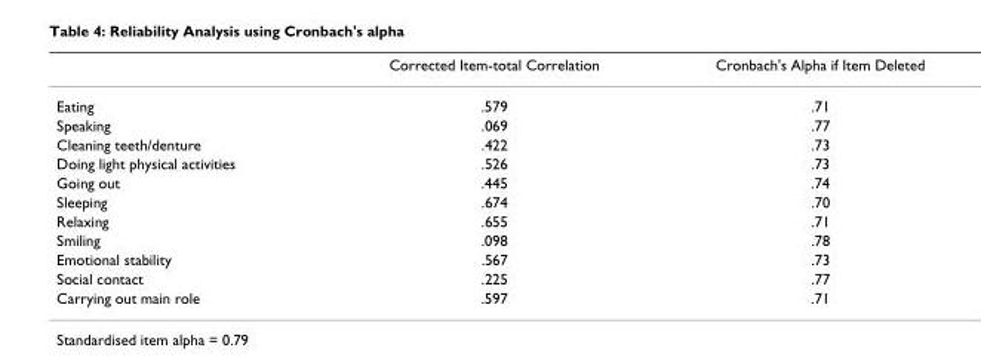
<table><thead><tr><td></td><td>Corrected Item-total Correlation</td><td>Cronbach&#x27;s Alpha if Item Deleted</td></tr></thead><tbody><tr><td>Eating</td><td>.579</td><td>.71</td></tr><tr><td>Speaking</td><td>.069</td><td>.77</td></tr><tr><td>Cleaning teeth/denture</td><td>.422</td><td>.73</td></tr><tr><td>Doing light physical activities</td><td>.526</td><td>.73</td></tr><tr><td>Going out</td><td>.445</td><td>.74</td></tr><tr><td>Sleeping</td><td>.674</td><td>.70</td></tr><tr><td>Relaxing</td><td>.655</td><td>.71</td></tr><tr><td>Smiling</td><td>.098</td><td>.78</td></tr><tr><td>Emotional stability</td><td>.567</td><td>.73</td></tr><tr><td>Social contact</td><td>.225</td><td>.77</td></tr><tr><td>Carrying out main role</td><td>.597</td><td>.71</td></tr></tbody></table>